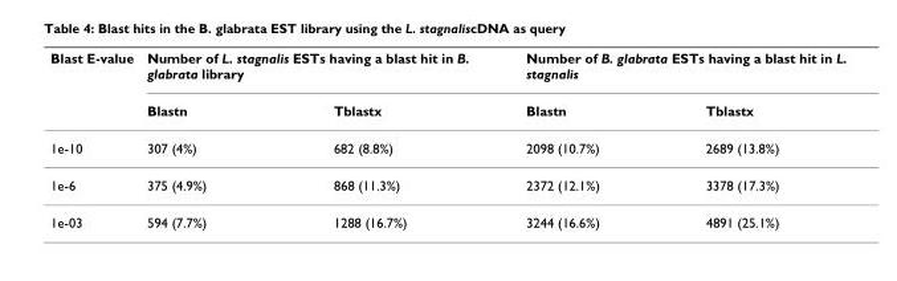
<table><thead><tr><td rowspan="2">Blast E-value</td><td colspan="2">Number of L. stagnalis ESTs having a blast hit in B. glabrata library</td><td colspan="2">Number of B. glabrata ESTs having a blast hit in L. stagnalis</td></tr><tr><td>Blastn</td><td>Tblastx</td><td>Blastn</td><td>Tblastx</td></tr></thead><tbody><tr><td>1e-10</td><td>307 (4%)</td><td>682 (8.8%)</td><td>2098 (10.7%)</td><td>2689 (13.8%)</td></tr><tr><td>1e-6</td><td>375 (4.9%)</td><td>868 (11.3%)</td><td>2372 (12.1%)</td><td>3378 (17.3%)</td></tr><tr><td>1e-03</td><td>594 (7.7%)</td><td>1288 (16.7%)</td><td>3244 (16.6%)</td><td>4891 (25.1%)</td></tr></tbody></table>